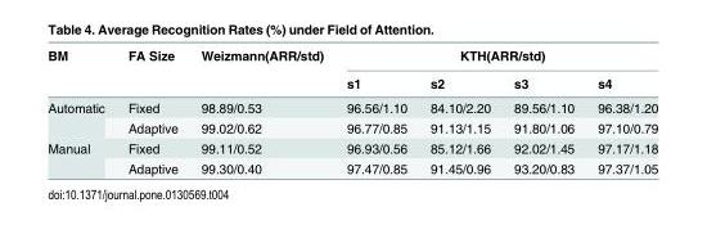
<table><thead><tr><td rowspan="2">BM</td><td rowspan="2">FA Size</td><td rowspan="2">Weizmann(ARR/std)</td><td colspan="4">KTH(ARR/std)</td></tr><tr><td>s1</td><td>s2</td><td>s3</td><td>s4</td></tr></thead><tbody><tr><td rowspan="2">Automatic</td><td>Fixed</td><td>98.89/0.53</td><td>96.56/1.10</td><td>84.10/2.20</td><td>89.56/1.10</td><td>96.38/1.20</td></tr><tr><td>Adaptive</td><td>99.02/0.62</td><td>96.77/0.85</td><td>91.13/1.15</td><td>91.80/1.06</td><td>97.10/0.79</td></tr><tr><td rowspan="2">Manual</td><td>Fixed</td><td>99.11/0.52</td><td>96.93/0.56</td><td>85.12/1.66</td><td>92.02/1.45</td><td>97.17/1.18</td></tr><tr><td>Adaptive</td><td>99.30/0.40</td><td>97.47/0.85</td><td>91.45/0.96</td><td>93.20/0.83</td><td>97.37/1.05</td></tr></tbody></table>